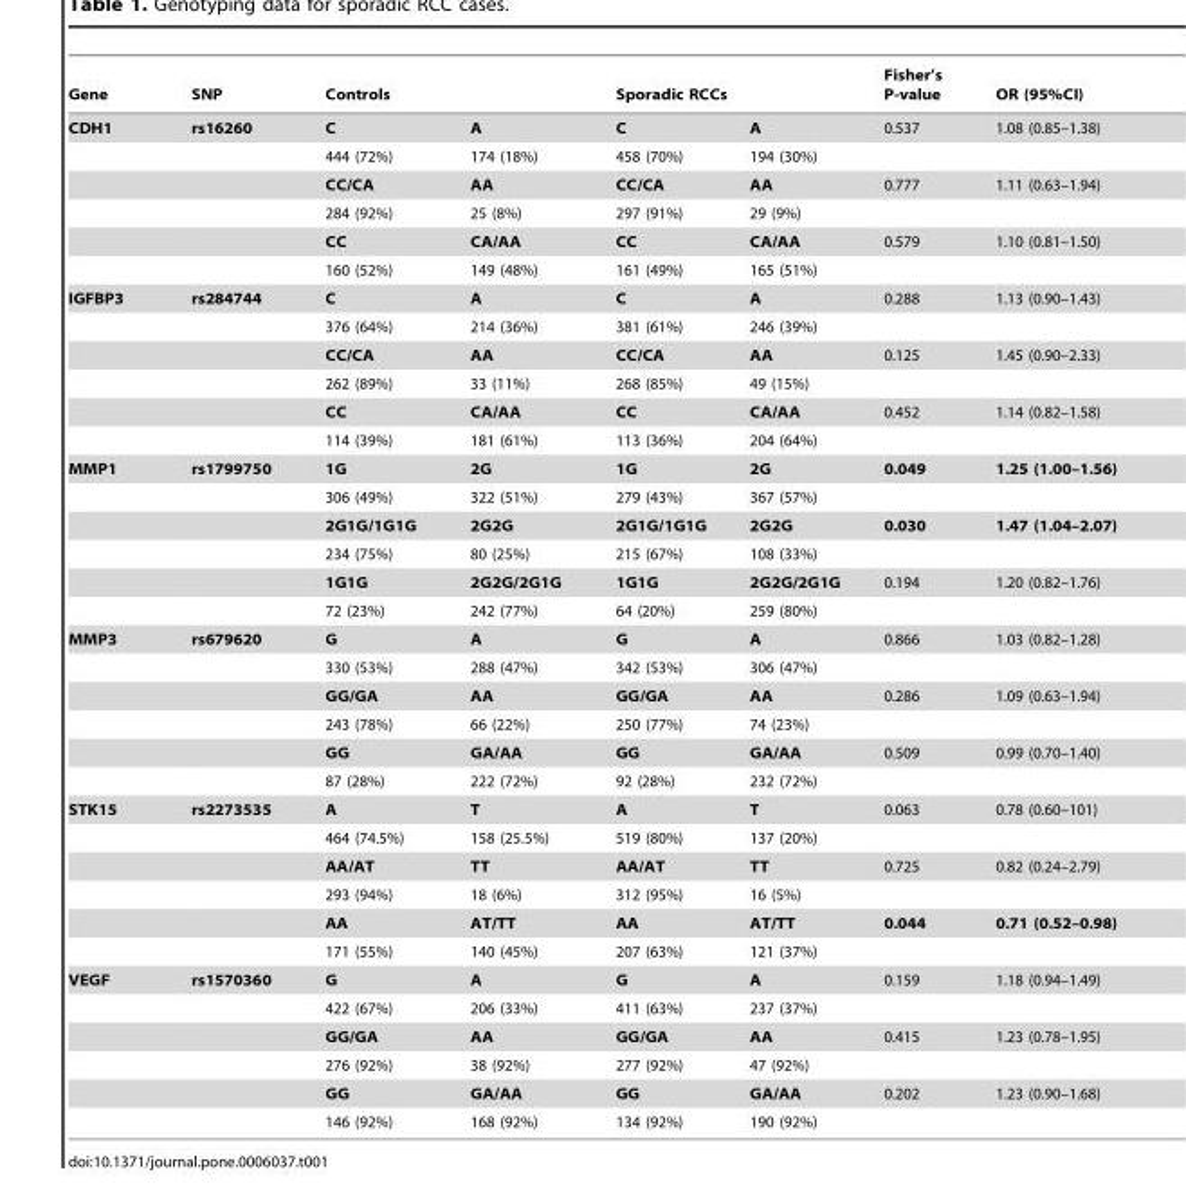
<table><thead><tr><td rowspan="2">Gene CDH1</td><td rowspan="2">SNP rs16260</td><td colspan="2">Controls</td><td colspan="2">Sporadic RCCs</td><td rowspan="2">Fisher’s P-value 0.537</td><td rowspan="2">OR (95%CI) 1.08 (0.85–1.38)</td></tr><tr><td>C</td><td>A</td><td>C</td><td>A</td></tr></thead><tbody><tr><td></td><td></td><td>444 (72%)</td><td>174 (18%)</td><td>458 (70%)</td><td>194 (30%)</td><td></td><td></td></tr><tr><td></td><td></td><td>CC/CA</td><td>AA</td><td>CC/CA</td><td>AA</td><td>0.777</td><td>1.11 (0.63–1.94)</td></tr><tr><td></td><td></td><td>284 (92%)</td><td>25 (8%)</td><td>297 (91%)</td><td>29 (9%)</td><td></td><td></td></tr><tr><td></td><td></td><td>CC</td><td>CA/AA</td><td>CC</td><td>CA/AA</td><td>0.579</td><td>1.10 (0.81–1.50)</td></tr><tr><td></td><td></td><td>160 (52%)</td><td>149 (48%)</td><td>161 (49%)</td><td>165 (51%)</td><td></td><td></td></tr><tr><td rowspan="6">IGFBP3</td><td>rs284744</td><td>C</td><td>A</td><td>C</td><td>A</td><td>0.288</td><td>1.13 (0.90–1.43)</td></tr><tr><td></td><td>376 (64%)</td><td>214 (36%)</td><td>381 (61%)</td><td>246 (39%)</td><td></td><td></td></tr><tr><td></td><td>CC/CA</td><td>AA</td><td>CC/CA</td><td>AA</td><td>0.125</td><td>1.45 (0.90–2.33)</td></tr><tr><td></td><td>262 (89%)</td><td>33 (11%)</td><td>268 (85%)</td><td>49 (15%)</td><td></td><td></td></tr><tr><td></td><td>CC</td><td>CA/AA</td><td>CC</td><td>CA/AA</td><td>0.452</td><td>1.14 (0.82–1.58)</td></tr><tr><td></td><td>114 (39%)</td><td>181 (61%)</td><td>113 (36%)</td><td>204 (64%)</td><td></td><td></td></tr><tr><td rowspan="6">MMP1</td><td>rs1799750</td><td>1G</td><td>2G</td><td>1G</td><td>2G</td><td>0.049</td><td>1.25 (1.00–1.56)</td></tr><tr><td></td><td>306 (49%)</td><td>322 (51%)</td><td>279 (43%)</td><td>367 (57%)</td><td></td><td></td></tr><tr><td></td><td>2G1G/1G1G</td><td>2G2G</td><td>2G1G/1G1G</td><td>2G2G</td><td>0.030</td><td>1.47 (1.04–2.07)</td></tr><tr><td></td><td>234 (75%)</td><td>80 (25%)</td><td>215 (67%)</td><td>108 (33%)</td><td></td><td></td></tr><tr><td></td><td>1G1G</td><td>2G2G/2G1G</td><td>1G1G</td><td>2G2G/2G1G</td><td>0.194</td><td>1.20 (0.82–1.76)</td></tr><tr><td></td><td>72 (23%)</td><td>242 (77%)</td><td>64 (20%)</td><td>259 (80%)</td><td></td><td></td></tr><tr><td rowspan="6">MMP3</td><td>rs679620</td><td>G</td><td>A</td><td>G</td><td>A</td><td>0.866</td><td>1.03 (0.82–1.28)</td></tr><tr><td></td><td>330 (53%)</td><td>288 (47%)</td><td>342 (53%)</td><td>306 (47%)</td><td></td><td></td></tr><tr><td></td><td>GG/GA</td><td>AA</td><td>GG/GA</td><td>AA</td><td>0.286</td><td>1.09 (0.63–1.94)</td></tr><tr><td></td><td>243 (78%)</td><td>66 (22%)</td><td>250 (77%)</td><td>74 (23%)</td><td></td><td></td></tr><tr><td></td><td>GG</td><td>GA/AA</td><td>GG</td><td>GA/AA</td><td>0.509</td><td>0.99 (0.70–1.40)</td></tr><tr><td></td><td>87 (28%)</td><td>222 (72%)</td><td>92 (28%)</td><td>232 (72%)</td><td></td><td></td></tr><tr><td rowspan="6">STK15</td><td>rs2273535</td><td>A</td><td>T</td><td>A</td><td>T</td><td>0.063</td><td>0.78 (0.60–101)</td></tr><tr><td></td><td>464 (74.5%)</td><td>158 (25.5%)</td><td>519 (80%)</td><td>137 (20%)</td><td></td><td></td></tr><tr><td></td><td>AA/AT</td><td>TT</td><td>AA/AT</td><td>TT</td><td>0.725</td><td>0.82 (0.24–2.79)</td></tr><tr><td></td><td>293 (94%)</td><td>18 (6%)</td><td>312 (95%)</td><td>16 (5%)</td><td></td><td></td></tr><tr><td></td><td>AA</td><td>AT/TT</td><td>AA</td><td>AT/TT</td><td>0.044</td><td>0.71 (0.52–0.98)</td></tr><tr><td></td><td>171 (55%)</td><td>140 (45%)</td><td>207 (63%)</td><td>121 (37%)</td><td></td><td></td></tr><tr><td rowspan="6">VEGF</td><td>rs1570360</td><td>G</td><td>A</td><td>G</td><td>A</td><td>0.159</td><td>1.18 (0.94–1.49)</td></tr><tr><td></td><td>422 (67%)</td><td>206 (33%)</td><td>411 (63%)</td><td>237 (37%)</td><td></td><td></td></tr><tr><td></td><td>GG/GA</td><td>AA</td><td>GG/GA</td><td>AA</td><td>0.415</td><td>1.23 (0.78–1.95)</td></tr><tr><td></td><td>276 (92%)</td><td>38 (92%)</td><td>277 (92%)</td><td>47 (92%)</td><td></td><td></td></tr><tr><td></td><td>GG</td><td>GA/AA</td><td>GG</td><td>GA/AA</td><td>0.202</td><td>1.23 (0.90–1.68)</td></tr><tr><td></td><td>146 (92%)</td><td>168 (92%)</td><td>134 (92%)</td><td>190 (92%)</td><td></td><td></td></tr></tbody></table>